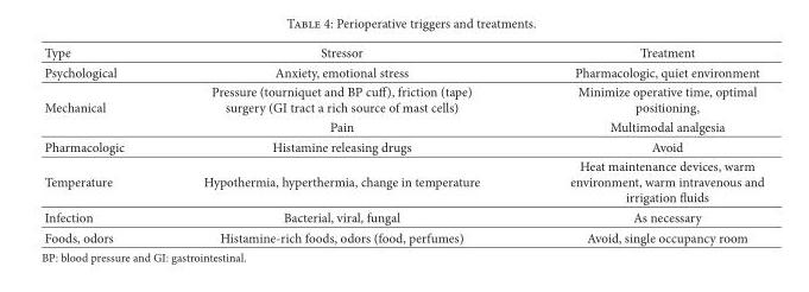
<table><thead><tr><td>Type</td><td>Stressor</td><td>Treatment</td></tr></thead><tbody><tr><td>Psychological</td><td>Anxiety, emotional stress</td><td>Pharmacologic, quiet environment</td></tr><tr><td rowspan="2">Mechanical</td><td>Pressure (tourniquet and BP cuff), friction (tape) surgery (GI tract a rich source of mast cells)</td><td>Minimize operative time, optimal positioning,</td></tr><tr><td>Pain</td><td>Multimodal analgesia</td></tr><tr><td>Pharmacologic</td><td>Histamine releasing drugs</td><td>Avoid</td></tr><tr><td>Temperature</td><td>Hypothermia, hyperthermia, change in temperature</td><td>Heat maintenance devices, warm environment, warm intravenous and irrigation fluids</td></tr><tr><td>Infection</td><td>Bacterial, viral, fungal</td><td>As necessary</td></tr><tr><td>Foods, odors</td><td>Histamine-rich foods, odors (food, perfumes)</td><td>Avoid, single occupancy room</td></tr></tbody></table>